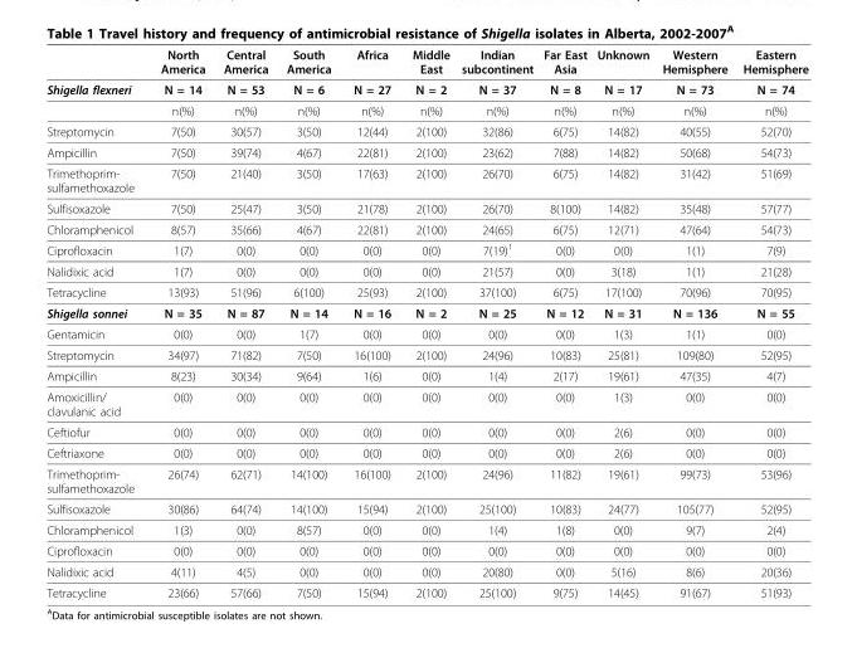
<table><thead><tr><td></td><td>North America</td><td>Central America</td><td>South America</td><td>Africa</td><td>Middle East</td><td>Indian subcontinent</td><td>Far East Asia</td><td>Unknown</td><td>Western Hemisphere</td><td>Eastern Hemisphere</td></tr></thead><tbody><tr><td rowspan="2">Shigella flexneri</td><td>N = 14</td><td>N = 53</td><td>N = 6</td><td>N = 27</td><td>N = 2</td><td>N = 37</td><td>N = 8</td><td>N = 17</td><td>N = 73</td><td>N = 74</td></tr><tr><td>n(%)</td><td>n(%)</td><td>n(%)</td><td>n(%)</td><td>n(%)</td><td>n(%)</td><td>n(%)</td><td>n(%)</td><td>n(%)</td><td>n(%)</td></tr><tr><td>Streptomycin</td><td>7(50)</td><td>30(57)</td><td>3(50)</td><td>12(44)</td><td>2(100)</td><td>32(86)</td><td>6(75)</td><td>14(82)</td><td>40(55)</td><td>52(70)</td></tr><tr><td>Ampicillin</td><td>7(50)</td><td>39(74)</td><td>4(67)</td><td>22(81)</td><td>2(100)</td><td>23(62)</td><td>7(88)</td><td>14(82)</td><td>50(68)</td><td>54(73)</td></tr><tr><td>Trimethoprim- sulfamethoxazole</td><td>7(50)</td><td>21(40)</td><td>3(50)</td><td>17(63)</td><td>2(100)</td><td>26(70)</td><td>6(75)</td><td>14(82)</td><td>31(42)</td><td>51(69)</td></tr><tr><td>Sulfisoxazole</td><td>7(50)</td><td>25(47)</td><td>3(50)</td><td>21(78)</td><td>2(100)</td><td>26(70)</td><td>8(100)</td><td>14(82)</td><td>35(48)</td><td>57(77)</td></tr><tr><td>Chloramphenicol</td><td>8(57)</td><td>35(66)</td><td>4(67)</td><td>22(81)</td><td>2(100)</td><td>24(65)</td><td>6(75)</td><td>12(71)</td><td>47(64)</td><td>54(73)</td></tr><tr><td>Ciprofloxacin</td><td>1(7)</td><td>0(0)</td><td>0(0)</td><td>0(0)</td><td>0(0)</td><td>7(19)<sup>1</sup></td><td>0(0)</td><td>0(0)</td><td>1(1)</td><td>7(9)</td></tr><tr><td>Nalidixic acid</td><td>1(7)</td><td>0(0)</td><td>0(0)</td><td>0(0)</td><td>0(0)</td><td>21(57)</td><td>0(0)</td><td>3(18)</td><td>1(1)</td><td>21(28)</td></tr><tr><td>Tetracycline</td><td>13(93)</td><td>51(96)</td><td>6(100)</td><td>25(93)</td><td>2(100)</td><td>37(100)</td><td>6(75)</td><td>17(100)</td><td>70(96)</td><td>70(95)</td></tr><tr><td>Shigella sonnei</td><td>N = 35</td><td>N = 87</td><td>N = 14</td><td>N = 16</td><td>N = 2</td><td>N = 25</td><td>N = 12</td><td>N = 31</td><td>N = 136</td><td>N = 55</td></tr><tr><td>Gentamicin</td><td>0(0)</td><td>0(0)</td><td>1(7)</td><td>0(0)</td><td>0(0)</td><td>0(0)</td><td>0(0)</td><td>1(3)</td><td>1(1)</td><td>0(0)</td></tr><tr><td>Streptomycin</td><td>34(97)</td><td>71(82)</td><td>7(50)</td><td>16(100)</td><td>2(100)</td><td>24(96)</td><td>10(83)</td><td>25(81)</td><td>109(80)</td><td>52(95)</td></tr><tr><td>Ampicillin</td><td>8(23)</td><td>30(34)</td><td>9(64)</td><td>1(6)</td><td>0(0)</td><td>1(4)</td><td>2(17)</td><td>19(61)</td><td>47(35)</td><td>4(7)</td></tr><tr><td>Amoxicillin/ clavulanic acid</td><td>0(0)</td><td>0(0)</td><td>0(0)</td><td>0(0)</td><td>0(0)</td><td>0(0)</td><td>0(0)</td><td>1(3)</td><td>0(0)</td><td>0(0)</td></tr><tr><td>Ceftiofur</td><td>0(0)</td><td>0(0)</td><td>0(0)</td><td>0(0)</td><td>0(0)</td><td>0(0)</td><td>0(0)</td><td>2(6)</td><td>0(0)</td><td>0(0)</td></tr><tr><td>Ceftriaxone</td><td>0(0)</td><td>0(0)</td><td>0(0)</td><td>0(0)</td><td>0(0)</td><td>0(0)</td><td>0(0)</td><td>2(6)</td><td>0(0)</td><td>0(0)</td></tr><tr><td>Trimethoprim- sulfamethoxazole</td><td>26(74)</td><td>62(71)</td><td>14(100)</td><td>16(100)</td><td>2(100)</td><td>24(96)</td><td>11(82)</td><td>19(61)</td><td>99(73)</td><td>53(96)</td></tr><tr><td>Sulfisoxazole</td><td>30(86)</td><td>64(74)</td><td>14(100)</td><td>15(94)</td><td>2(100)</td><td>25(100)</td><td>10(83)</td><td>24(77)</td><td>105(77)</td><td>52(95)</td></tr><tr><td>Chloramphenicol</td><td>1(3)</td><td>0(0)</td><td>8(57)</td><td>0(0)</td><td>0(0)</td><td>1(4)</td><td>1(8)</td><td>0(0)</td><td>9(7)</td><td>2(4)</td></tr><tr><td>Ciprofloxacin</td><td>0(0)</td><td>0(0)</td><td>0(0)</td><td>0(0)</td><td>0(0)</td><td>0(0)</td><td>0(0)</td><td>0(0)</td><td>0(0)</td><td>0(0)</td></tr><tr><td>Nalidixic acid</td><td>4(11)</td><td>4(5)</td><td>0(0)</td><td>0(0)</td><td>0(0)</td><td>20(80)</td><td>0(0)</td><td>5(16)</td><td>8(6)</td><td>20(36)</td></tr><tr><td>Tetracycline</td><td>23(66)</td><td>57(66)</td><td>7(50)</td><td>15(94)</td><td>2(100)</td><td>25(100)</td><td>9(75)</td><td>14(45)</td><td>91(67)</td><td>51(93)</td></tr></tbody></table>